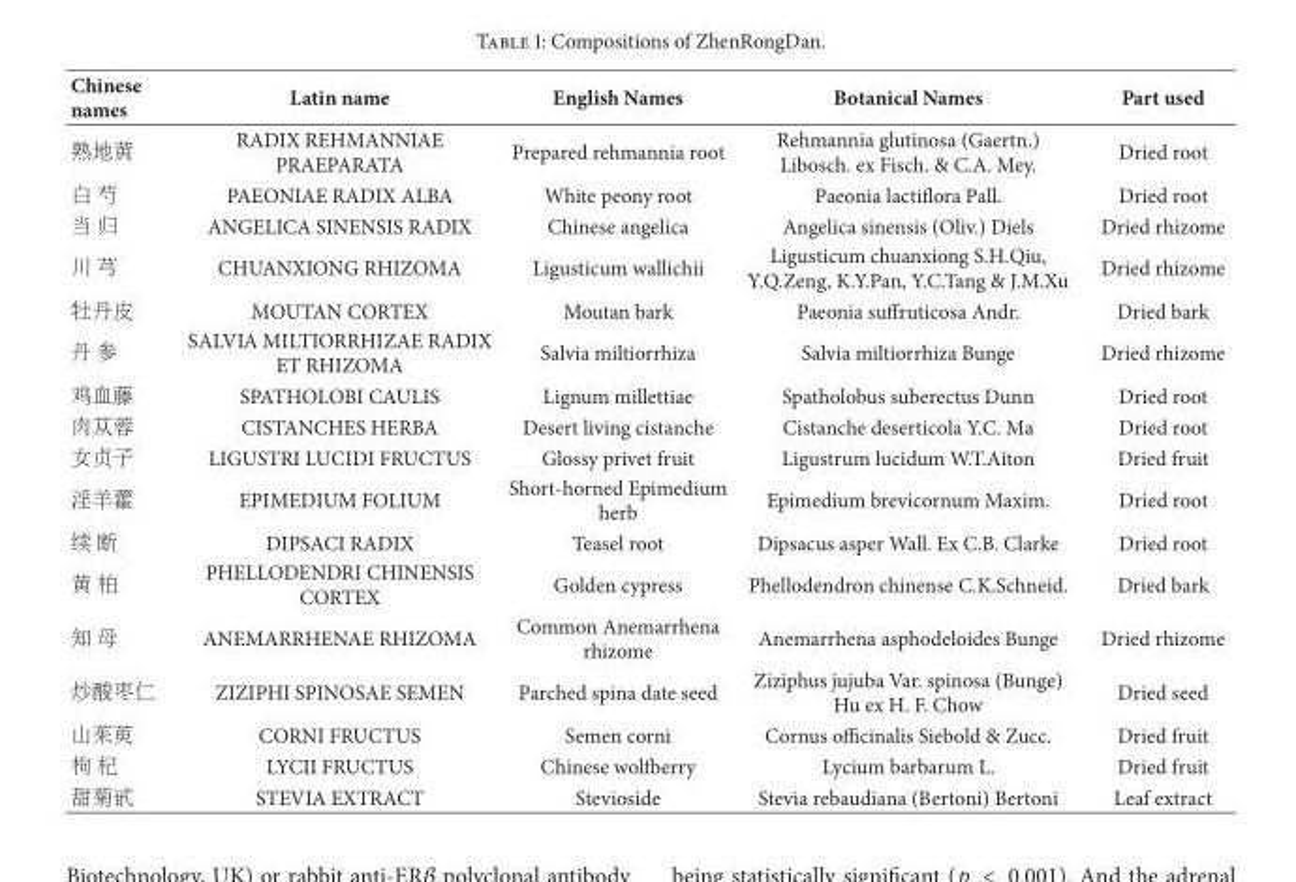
<table><thead><tr><td>Chinese names</td><td>Latin name</td><td>English Names</td><td>Botanical Names</td><td>Part used</td></tr></thead><tbody><tr><td>熟地黄</td><td>RADIX REHMANNIAE PRAEPARATA</td><td>Prepared rehmannia root</td><td>Rehmannia glutinosa (Gaertn.) Libosch. ex Fisch. &amp; C.A. Mey.</td><td>Dried root</td></tr><tr><td>白 芍</td><td>PAEONIAE RADIX ALBA</td><td>White peony root</td><td>Paeonia lactiflora Pall.</td><td>Dried root</td></tr><tr><td>当 归</td><td>ANGELICA SINENSIS RADIX</td><td>Chinese angelica</td><td>Angelica sinensis (Oliv.) Diels</td><td>Dried rhizome</td></tr><tr><td>川 芎</td><td>CHUANXIONG RHIZOMA</td><td>Ligusticum wallichii</td><td>Ligusticum chuanxiong S.H.Qiu, Y.Q.Zeng, K.Y.Pan, Y.C.Tang &amp; J.M.Xu</td><td>Dried rhizome</td></tr><tr><td>牡丹皮</td><td>MOUTAN CORTEX</td><td>Moutan bark</td><td>Paeonia suffruticosa Andr.</td><td>Dried bark</td></tr><tr><td>丹 参</td><td>SALVIA MILTIORRHIZAE RADIX ET RHIZOMA</td><td>Salvia miltiorrhiza</td><td>Salvia miltiorrhiza Bunge</td><td>Dried rhizome</td></tr><tr><td>鸡血藤</td><td>SPATHOLOBI CAULIS</td><td>Lignum millettiae</td><td>Spatholobus suberectus Dunn</td><td>Dried root</td></tr><tr><td>肉苁蓉</td><td>CISTANCHES HERBA</td><td>Desert living cistanche</td><td>Cistanche deserticola Y.C. Ma</td><td>Dried root</td></tr><tr><td>女贞子</td><td>LIGUSTRI LUCIDI FRUCTUS</td><td>Glossy privet fruit</td><td>Ligustrum lucidum W.T.Aiton</td><td>Dried fruit</td></tr><tr><td>淫羊藿</td><td>EPIMEDIUM FOLIUM</td><td>Short-horned Epimedium herb</td><td>Epimedium brevicornum Maxim.</td><td>Dried root</td></tr><tr><td>续 断</td><td>DIPSACI RADIX</td><td>Teasel root</td><td>Dipsacus asper Wall. Ex C.B. Clarke</td><td>Dried root</td></tr><tr><td>黄 柏</td><td>PHELLODENDRI CHINENSIS CORTEX</td><td>Golden cypress</td><td>Phellodendron chinense C.K.Schneid.</td><td>Dried bark</td></tr><tr><td>知 母</td><td>ANEMARRHENAE RHIZOMA</td><td>Common Anemarrhena rhizome</td><td>Anemarrhena asphodeloides Bunge</td><td>Dried rhizome</td></tr><tr><td>炒酸枣仁</td><td>ZIZIPHI SPINOSAE SEMEN</td><td>Parched spina date seed</td><td>Ziziphus jujuba Var. spinosa (Bunge) Hu ex H. F. Chow</td><td>Dried seed</td></tr><tr><td>山茱萸</td><td>CORNI FRUCTUS</td><td>Semen corni</td><td>Cornus officinalis Siebold &amp; Zucc.</td><td>Dried fruit</td></tr><tr><td>枸 杞</td><td>LYCII FRUCTUS</td><td>Chinese wolfberry</td><td>Lycium barbarum L.</td><td>Dried fruit</td></tr><tr><td>甜菊甙</td><td>STEVIA EXTRACT</td><td>Stevioside</td><td>Stevia rebaudiana (Bertoni) Bertoni</td><td>Leaf extract</td></tr></tbody></table>